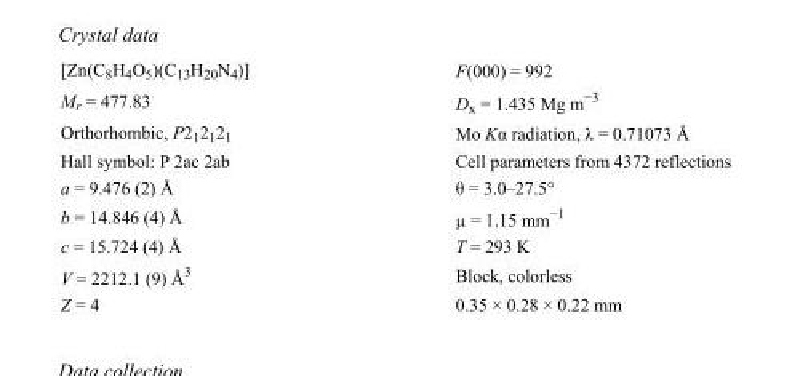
<table><tbody><tr><td>[Zn(C<sub>8</sub>H<sub>4</sub>O<sub>5</sub>)(C<sub>13</sub>H<sub>20</sub>N<sub>4</sub>)]</td><td>F(000) = 992</td></tr><tr><td>M<sub>r</sub> = 477.83</td><td>D<sub>x</sub> = 1.435 Mg m<sup>−3</sup></td></tr><tr><td>Orthorhombic, P2<sub>1</sub>2<sub>1</sub>2<sub>1</sub></td><td>Mo Kα radiation, λ = 0.71073 Å</td></tr><tr><td>Hall symbol: P 2ac 2ab</td><td>Cell parameters from 4372 reflections</td></tr><tr><td>a = 9.476 (2) Å</td><td>θ = 3.0–27.5°</td></tr><tr><td>b = 14.846 (4) Å</td><td>µ = 1.15 mm<sup>−1</sup></td></tr><tr><td>c = 15.724 (4) Å</td><td>T = 293 K</td></tr><tr><td>V = 2212.1 (9) Å<sup>3</sup></td><td>Block, colorless</td></tr><tr><td>Z = 4</td><td>0.35 × 0.28 × 0.22 mm</td></tr></tbody></table>